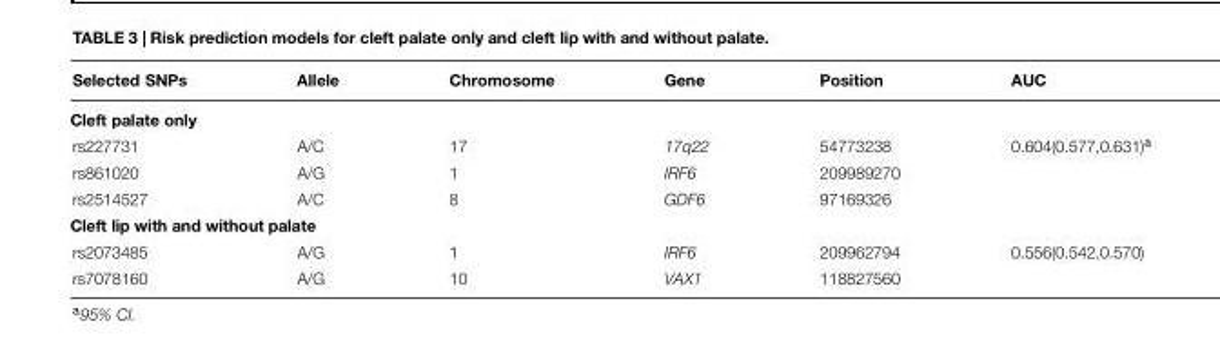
<table><thead><tr><td>Selected SNPs</td><td>Allele</td><td>Chromosome</td><td>Gene</td><td>Position</td><td>AUC</td></tr></thead><tbody><tr><td colspan="6">Cleft palate only</td></tr><tr><td>rs227731</td><td>A/C</td><td>17</td><td>17q22</td><td>54773238</td><td>0.604(0.577,0.631)<sup>a</sup></td></tr><tr><td>rs861020</td><td>A/G</td><td>1</td><td>IRF6</td><td>209989270</td><td></td></tr><tr><td>rs2514527</td><td>A/C</td><td>8</td><td>GDF6</td><td>97169326</td><td></td></tr><tr><td colspan="6">Cleft lip with and without palate</td></tr><tr><td>rs2073485</td><td>A/G</td><td>1</td><td>IRF6</td><td>209962794</td><td>0.556(0.542,0.570)</td></tr><tr><td>rs7078160</td><td>A/G</td><td>10</td><td>VAX1</td><td>118827560</td><td></td></tr></tbody></table>